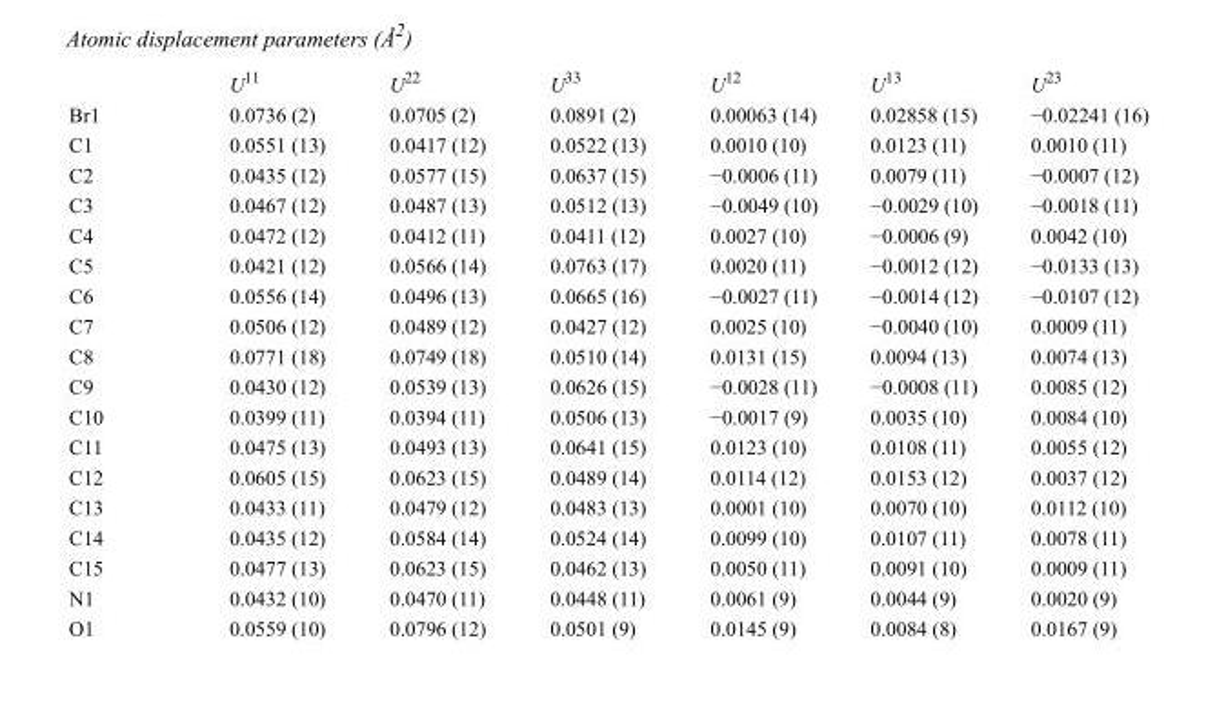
<table><thead><tr><td></td><td>U<sup>11</sup></td><td>U<sup>22</sup></td><td>U<sup>33</sup></td><td>U<sup>12</sup></td><td>U<sup>13</sup></td><td>U<sup>23</sup></td></tr></thead><tbody><tr><td>Br1</td><td>0.0736 (2)</td><td>0.0705 (2)</td><td>0.0891 (2)</td><td>0.00063 (14)</td><td>0.02858 (15)</td><td>−0.02241 (16)</td></tr><tr><td>C1</td><td>0.0551 (13)</td><td>0.0417 (12)</td><td>0.0522 (13)</td><td>0.0010 (10)</td><td>0.0123 (11)</td><td>0.0010 (11)</td></tr><tr><td>C2</td><td>0.0435 (12)</td><td>0.0577 (15)</td><td>0.0637 (15)</td><td>−0.0006 (11)</td><td>0.0079 (11)</td><td>−0.0007 (12)</td></tr><tr><td>C3</td><td>0.0467 (12)</td><td>0.0487 (13)</td><td>0.0512 (13)</td><td>−0.0049 (10)</td><td>−0.0029 (10)</td><td>−0.0018 (11)</td></tr><tr><td>C4</td><td>0.0472 (12)</td><td>0.0412 (11)</td><td>0.0411 (12)</td><td>0.0027 (10)</td><td>−0.0006 (9)</td><td>0.0042 (10)</td></tr><tr><td>C5</td><td>0.0421 (12)</td><td>0.0566 (14)</td><td>0.0763 (17)</td><td>0.0020 (11)</td><td>−0.0012 (12)</td><td>−0.0133 (13)</td></tr><tr><td>C6</td><td>0.0556 (14)</td><td>0.0496 (13)</td><td>0.0665 (16)</td><td>−0.0027 (11)</td><td>−0.0014 (12)</td><td>−0.0107 (12)</td></tr><tr><td>C7</td><td>0.0506 (12)</td><td>0.0489 (12)</td><td>0.0427 (12)</td><td>0.0025 (10)</td><td>−0.0040 (10)</td><td>0.0009 (11)</td></tr><tr><td>C8</td><td>0.0771 (18)</td><td>0.0749 (18)</td><td>0.0510 (14)</td><td>0.0131 (15)</td><td>0.0094 (13)</td><td>0.0074 (13)</td></tr><tr><td>C9</td><td>0.0430 (12)</td><td>0.0539 (13)</td><td>0.0626 (15)</td><td>−0.0028 (11)</td><td>−0.0008 (11)</td><td>0.0085 (12)</td></tr><tr><td>C10</td><td>0.0399 (11)</td><td>0.0394 (11)</td><td>0.0506 (13)</td><td>−0.0017 (9)</td><td>0.0035 (10)</td><td>0.0084 (10)</td></tr><tr><td>C11</td><td>0.0475 (13)</td><td>0.0493 (13)</td><td>0.0641 (15)</td><td>0.0123 (10)</td><td>0.0108 (11)</td><td>0.0055 (12)</td></tr><tr><td>C12</td><td>0.0605 (15)</td><td>0.0623 (15)</td><td>0.0489 (14)</td><td>0.0114 (12)</td><td>0.0153 (12)</td><td>0.0037 (12)</td></tr><tr><td>C13</td><td>0.0433 (11)</td><td>0.0479 (12)</td><td>0.0483 (13)</td><td>0.0001 (10)</td><td>0.0070 (10)</td><td>0.0112 (10)</td></tr><tr><td>C14</td><td>0.0435 (12)</td><td>0.0584 (14)</td><td>0.0524 (14)</td><td>0.0099 (10)</td><td>0.0107 (11)</td><td>0.0078 (11)</td></tr><tr><td>C15</td><td>0.0477 (13)</td><td>0.0623 (15)</td><td>0.0462 (13)</td><td>0.0050 (11)</td><td>0.0091 (10)</td><td>0.0009 (11)</td></tr><tr><td>N1</td><td>0.0432 (10)</td><td>0.0470 (11)</td><td>0.0448 (11)</td><td>0.0061 (9)</td><td>0.0044 (9)</td><td>0.0020 (9)</td></tr><tr><td>O1</td><td>0.0559 (10)</td><td>0.0796 (12)</td><td>0.0501 (9)</td><td>0.0145 (9)</td><td>0.0084 (8)</td><td>0.0167 (9)</td></tr></tbody></table>